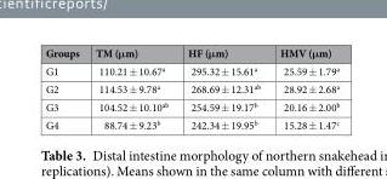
<table><thead><tr><td>Groups</td><td>TM (μm)</td><td>HF (μm)</td><td>HMV (μm)</td></tr></thead><tbody><tr><td>G1</td><td>110.21 ± 10.67<sup>a</sup></td><td>295.32 ± 15.61<sup>a</sup></td><td>25.59 ± 1.79<sup>a</sup></td></tr><tr><td>G2</td><td>114.53 ± 9.78<sup>a</sup></td><td>268.69 ± 12.31<sup>ab</sup></td><td>28.92 ± 2.68<sup>a</sup></td></tr><tr><td>G3</td><td>104.52 ± 10.10<sup>ab</sup></td><td>254.59 ± 19.17<sup>b</sup></td><td>20.16 ± 2.00<sup>b</sup></td></tr><tr><td>G4</td><td>88.74 ± 9.23<sup>b</sup></td><td>242.34 ± 19.95<sup>b</sup></td><td>15.28 ± 1.47<sup>c</sup></td></tr></tbody></table>